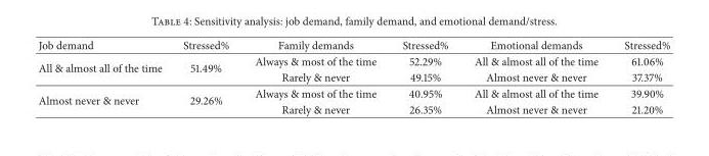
<table><thead><tr><td>Job demand</td><td>Stressed%</td><td>Family demands</td><td>Stressed%</td><td>Emotional demands</td><td>Stressed%</td></tr></thead><tbody><tr><td rowspan="2">All &amp; almost all of the time</td><td rowspan="2">51.49%</td><td>Always &amp; most of the time</td><td>52.29%</td><td>All &amp; almost all of the time</td><td>61.06%</td></tr><tr><td>Rarely &amp; never</td><td>49.15%</td><td>Almost never &amp; never</td><td>37.37%</td></tr><tr><td rowspan="2">Almost never &amp; never</td><td rowspan="2">29.26%</td><td>Always &amp; most of the time</td><td>40.95%</td><td>All &amp; almost all of the time</td><td>39.90%</td></tr><tr><td>Rarely &amp; never</td><td>26.35%</td><td>Almost never &amp; never</td><td>21.20%</td></tr></tbody></table>